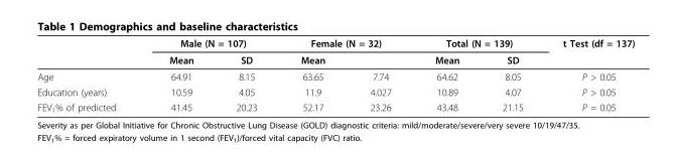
<table><thead><tr><td rowspan="2"></td><td colspan="2">Male (N = 107)</td><td colspan="2">Female (N = 32)</td><td colspan="2">Total (N = 139)</td><td rowspan="2">t Test (df = 137)</td></tr><tr><td>Mean</td><td>SD</td><td>Mean</td><td></td><td>Mean</td><td>SD</td></tr></thead><tbody><tr><td>Age</td><td>64.91</td><td>8.15</td><td>63.65</td><td>7.74</td><td>64.62</td><td>8.05</td><td>P &gt; 0.05</td></tr><tr><td>Education (years)</td><td>10.59</td><td>4.05</td><td>11.9</td><td>4.027</td><td>10.89</td><td>4.07</td><td>P &gt; 0.05</td></tr><tr><td>FEV<sub>1</sub>% of predicted</td><td>41.45</td><td>20.23</td><td>52.17</td><td>23.26</td><td>43.48</td><td>21.15</td><td>P = 0.05</td></tr></tbody></table>